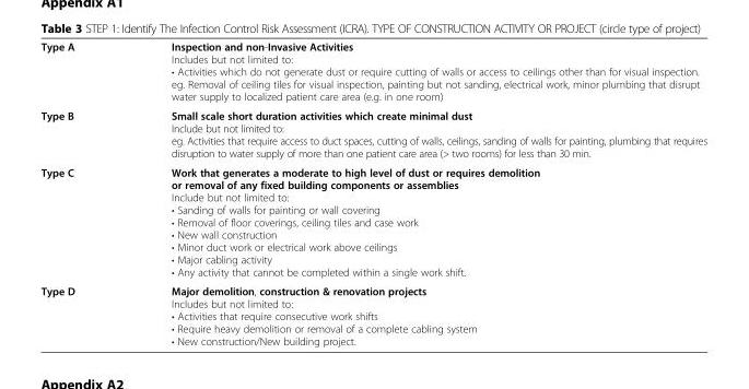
<table><tbody><tr><td>Type A</td><td>Inspection and non-Invasive Activities Includes but not limited to: • Activities which do not generate dust or require cutting of walls or access to ceilings other than for visual inspection. eg. Removal of ceiling tiles for visual inspection, painting but not sanding, electrical work, minor plumbing that disrupt water supply to localized patient care area (e.g. in one room)</td></tr><tr><td>Type B</td><td>Small scale short duration activities which create minimal dust Include but not limited to: eg. Activities that require access to duct spaces, cutting of walls, ceilings, sanding of walls for painting, plumbing that requires disruption to water supply of more than one patient care area (&gt; two rooms) for less than 30 min.</td></tr><tr><td>Type C</td><td>Work that generates a moderate to high level of dust or requires demolition or removal of any fixed building components or assemblies Include but not limited to: • Sanding of walls for painting or wall covering • Removal of floor coverings, ceiling tiles and case work • New wall construction • Minor duct work or electrical work above ceilings • Major cabling activity • Any activity that cannot be completed within a single work shift.</td></tr><tr><td>Type D</td><td>Major demolition, construction &amp; renovation projects Includes but not limited to: • Activities that require consecutive work shifts • Require heavy demolition or removal of a complete cabling system • New construction/New building project.</td></tr></tbody></table>